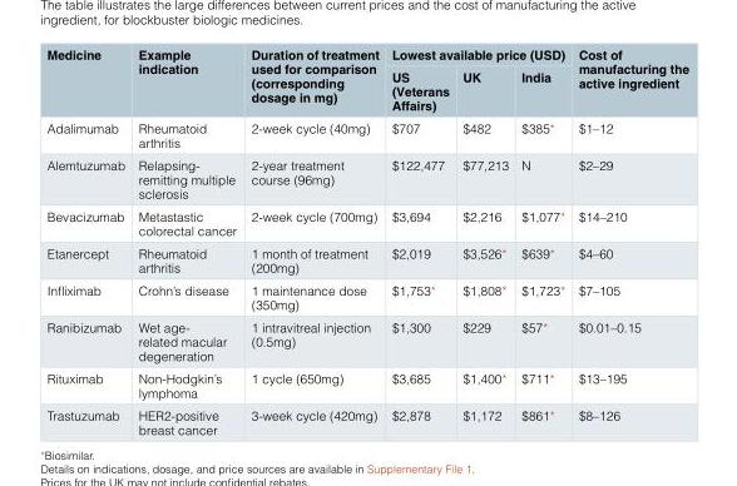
<table><thead><tr><td rowspan="2">Medicine</td><td rowspan="2">Example indication</td><td rowspan="2">Duration of treatment used for comparison (corresponding dosage in mg)</td><td colspan="3">Lowest available price (USD)</td><td rowspan="2">Cost of manufacturing the active ingredient</td></tr><tr><td>US (Veterans Affairs)</td><td>UK</td><td>India</td></tr></thead><tbody><tr><td>Adalimumab</td><td>Rheumatoid arthritis</td><td>2-week cycle (40mg)</td><td>$707</td><td>$482</td><td>$385*</td><td>$1–12</td></tr><tr><td>Alemtuzumab</td><td>Relapsing- remitting multiple sclerosis</td><td>2-year treatment course (96mg)</td><td>$122,477</td><td>$77,213</td><td>N</td><td>$2–29</td></tr><tr><td>Bevacizumab</td><td>Metastastic colorectal cancer</td><td>2-week cycle (700mg)</td><td>$3,694</td><td>$2,216</td><td>$1,077*</td><td>$14–210</td></tr><tr><td>Etanercept</td><td>Rheumatoid arthritis</td><td>1 month of treatment (200mg)</td><td>$2,019</td><td>$3,526*</td><td>$639*</td><td>$4–60</td></tr><tr><td>Infliximab</td><td>Crohn’s disease</td><td>1 maintenance dose (350mg)</td><td>$1,753*</td><td>$1,808*</td><td>$1,723*</td><td>$7–105</td></tr><tr><td>Ranibizumab</td><td>Wet age- related macular degeneration</td><td>1 intravitreal injection (0.5mg)</td><td>$1,300</td><td>$229</td><td>$57*</td><td>$0.01–0.15</td></tr><tr><td>Rituximab</td><td>Non-Hodgkin’s lymphoma</td><td>1 cycle (650mg)</td><td>$3,685</td><td>$1,400*</td><td>$711*</td><td>$13–195</td></tr><tr><td>Trastuzumab</td><td>HER2-positive breast cancer</td><td>3-week cycle (420mg)</td><td>$2,878</td><td>$1,172</td><td>$861*</td><td>$8–126</td></tr></tbody></table>